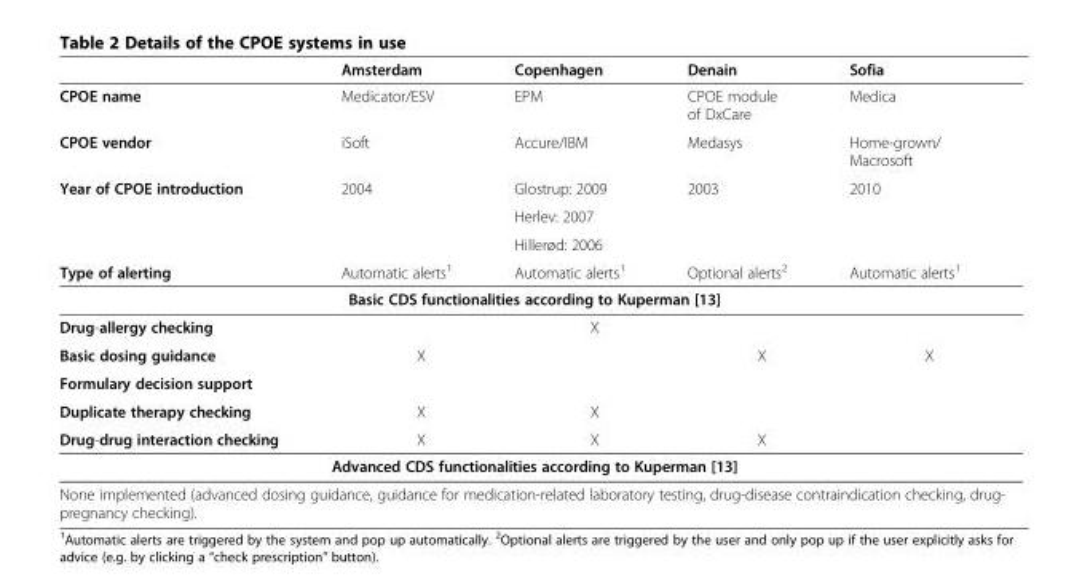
<table><thead><tr><td></td><td>Amsterdam</td><td>Copenhagen</td><td>Denain</td><td>Sofia</td></tr></thead><tbody><tr><td>CPOE name</td><td>Medicator/ESV</td><td>EPM</td><td>CPOE module of DxCare</td><td>Medica</td></tr><tr><td>CPOE vendor</td><td>iSoft</td><td>Accure/IBM</td><td>Medasys</td><td>Home-grown/ Macrosoft</td></tr><tr><td rowspan="3">Year of CPOE introduction</td><td>2004</td><td>Glostrup: 2009</td><td>2003</td><td>2010</td></tr><tr><td></td><td>Herlev: 2007</td><td></td><td></td></tr><tr><td></td><td>Hillerød: 2006</td><td></td><td></td></tr><tr><td>Type of alerting</td><td>Automatic alerts<sup>1</sup></td><td>Automatic alerts<sup>1</sup></td><td>Optional alerts<sup>2</sup></td><td>Automatic alerts<sup>1</sup></td></tr><tr><td colspan="5">Basic CDS functionalities according to Kuperman [13]</td></tr><tr><td>Drug-allergy checking</td><td></td><td>X</td><td></td><td></td></tr><tr><td>Basic dosing guidance</td><td>X</td><td></td><td>X</td><td>X</td></tr><tr><td colspan="5">Formulary decision support</td></tr><tr><td>Duplicate therapy checking</td><td>X</td><td>X</td><td></td><td></td></tr><tr><td>Drug-drug interaction checking</td><td>X</td><td>X</td><td>X</td><td></td></tr><tr><td colspan="5">Advanced CDS functionalities according to Kuperman [13]</td></tr><tr><td colspan="5">None implemented (advanced dosing guidance, guidance for medication-related laboratory testing, drug-disease contraindication checking, drug- pregnancy checking).</td></tr></tbody></table>